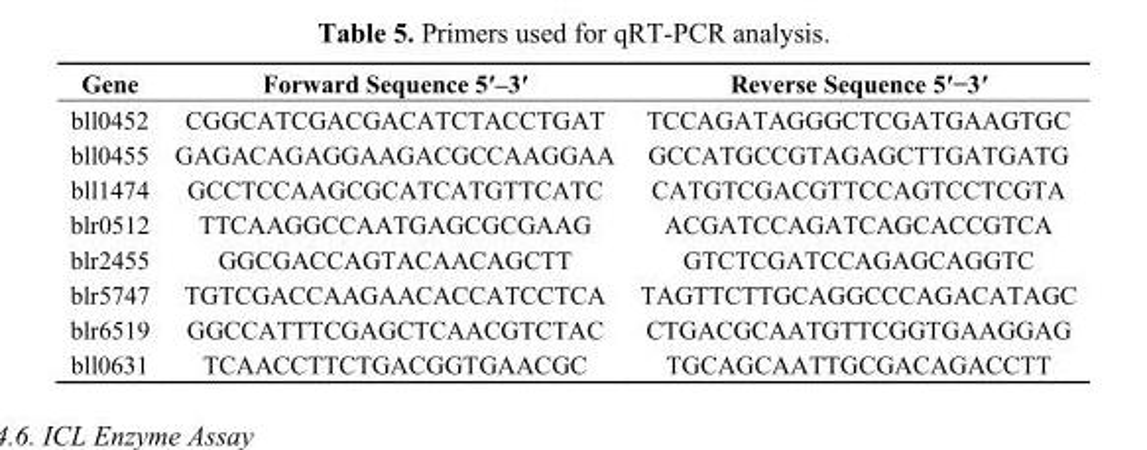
<table><thead><tr><td>Gene</td><td>Forward Sequence 5′–3′</td><td>Reverse Sequence 5′−3′</td></tr></thead><tbody><tr><td>bll0452</td><td>CGGCATCGACGACATCTACCTGAT</td><td>TCCAGATAGGGCTCGATGAAGTGC</td></tr><tr><td>bll0455</td><td>GAGACAGAGGAAGACGCCAAGGAA</td><td>GCCATGCCGTAGAGCTTGATGATG</td></tr><tr><td>bll1474</td><td>GCCTCCAAGCGCATCATGTTCATC</td><td>CATGTCGACGTTCCAGTCCTCGTA</td></tr><tr><td>blr0512</td><td>TTCAAGGCCAATGAGCGCGAAG</td><td>ACGATCCAGATCAGCACCGTCA</td></tr><tr><td>blr2455</td><td>GGCGACCAGTACAACAGCTT</td><td>GTCTCGATCCAGAGCAGGTC</td></tr><tr><td>blr5747</td><td>TGTCGACCAAGAACACCATCCTCA</td><td>TAGTTCTTGCAGGCCCAGACATAGC</td></tr><tr><td>blr6519</td><td>GGCCATTTCGAGCTCAACGTCTAC</td><td>CTGACGCAATGTTCGGTGAAGGAG</td></tr><tr><td>bll0631</td><td>TCAACCTTCTGACGGTGAACGC</td><td>TGCAGCAATTGCGACAGACCTT</td></tr></tbody></table>